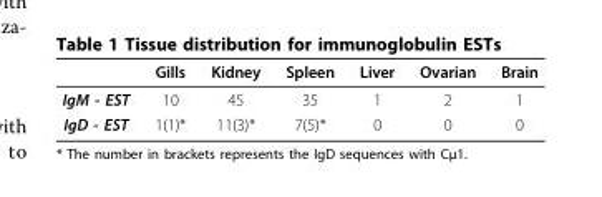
<table><thead><tr><td></td><td>Gills</td><td>Kidney</td><td>Spleen</td><td>Liver</td><td>Ovarian</td><td>Brain</td></tr></thead><tbody><tr><td>IgM - EST</td><td>10</td><td>45</td><td>35</td><td>1</td><td>2</td><td>1</td></tr><tr><td>IgD - EST</td><td>1(1)*</td><td>11(3)*</td><td>7(5)*</td><td>0</td><td>0</td><td>0</td></tr></tbody></table>